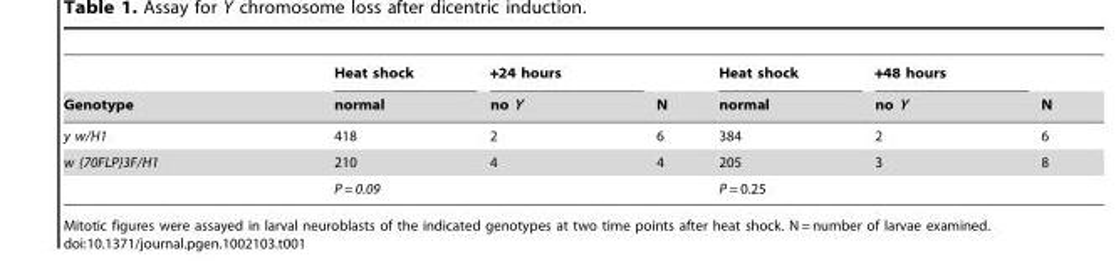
<table><thead><tr><td rowspan="2">Genotype</td><td rowspan="2">Heat shock normal</td><td rowspan="2">+24 hours no Y</td><td rowspan="2">N</td><td rowspan="2">Heat shock normal</td><td rowspan="2">+48 hours no Y</td><td rowspan="2">N</td></tr><tr></tr></thead><tbody><tr><td>y w/H1</td><td>418</td><td>2</td><td>6</td><td>384</td><td>2</td><td>6</td></tr><tr><td rowspan="2">w {70FLP}3F/H1</td><td>210</td><td>4</td><td>4</td><td>205</td><td>3</td><td>8</td></tr><tr><td>P = 0.09</td><td></td><td></td><td>P = 0.25</td><td></td><td></td></tr></tbody></table>